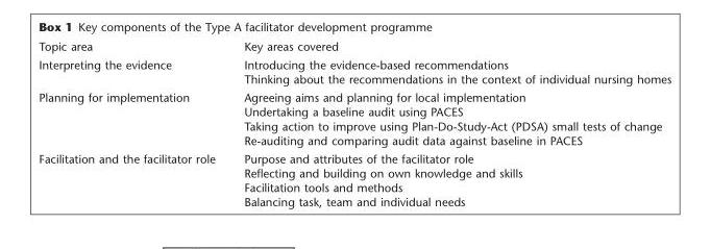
<table><tbody><tr><td>Topic area</td><td>Key areas covered</td></tr><tr><td rowspan="2">Interpreting the evidence</td><td>Introducing the evidence-based recommendations</td></tr><tr><td>Thinking about the recommendations in the context of individual nursing homes</td></tr><tr><td rowspan="4">Planning for implementation</td><td>Agreeing aims and planning for local implementation</td></tr><tr><td>Undertaking a baseline audit using PACES</td></tr><tr><td>Taking action to improve using Plan-Do-Study-Act (PDSA) small tests of change</td></tr><tr><td>Re-auditing and comparing audit data against baseline in PACES</td></tr><tr><td rowspan="4">Facilitation and the facilitator role</td><td>Purpose and attributes of the facilitator role</td></tr><tr><td>Reflecting and building on own knowledge and skills</td></tr><tr><td>Facilitation tools and methods</td></tr><tr><td>Balancing task, team and individual needs</td></tr></tbody></table>